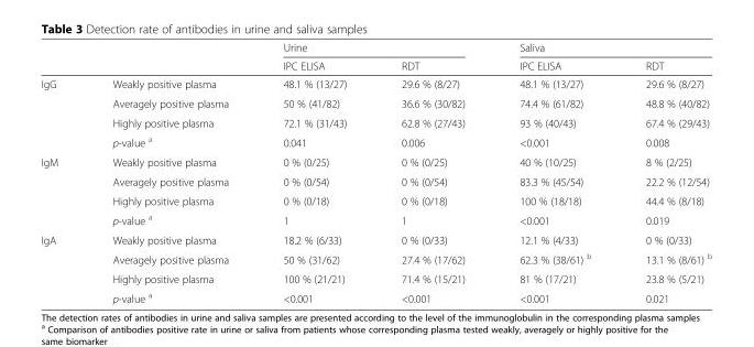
<table><thead><tr><td rowspan="2"></td><td rowspan="2"></td><td colspan="2">Urine</td><td colspan="2">Saliva</td></tr><tr><td>IPC ELISA</td><td>RDT</td><td>IPC ELISA</td><td>RDT</td></tr></thead><tbody><tr><td rowspan="4">IgG</td><td>Weakly positive plasma</td><td>48.1 % (13/27)</td><td>29.6 % (8/27)</td><td>48.1 % (13/27)</td><td>29.6 % (8/27)</td></tr><tr><td>Averagely positive plasma</td><td>50 % (41/82)</td><td>36.6 % (30/82)</td><td>74.4 % (61/82)</td><td>48.8 % (40/82)</td></tr><tr><td>Highly positive plasma</td><td>72.1 % (31/43)</td><td>62.8 % (27/43)</td><td>93 % (40/43)</td><td>67.4 % (29/43)</td></tr><tr><td>p-value <sup>a</sup></td><td>0.041</td><td>0.006</td><td>&lt;0.001</td><td>0.008</td></tr><tr><td rowspan="4">IgM</td><td>Weakly positive plasma</td><td>0 % (0/25)</td><td>0 % (0/25)</td><td>40 % (10/25)</td><td>8 % (2/25)</td></tr><tr><td>Averagely positive plasma</td><td>0 % (0/54)</td><td>0 % (0/54)</td><td>83.3 % (45/54)</td><td>22.2 % (12/54)</td></tr><tr><td>Highly positive plasma</td><td>0 % (0/18)</td><td>0 % (0/18)</td><td>100 % (18/18)</td><td>44.4 % (8/18)</td></tr><tr><td>p-value <sup>a</sup></td><td>1</td><td>1</td><td>&lt;0.001</td><td>0.019</td></tr><tr><td rowspan="4">IgA</td><td>Weakly positive plasma</td><td>18.2 % (6/33)</td><td>0 % (0/33)</td><td>12.1 % (4/33)</td><td>0 % (0/33)</td></tr><tr><td>Averagely positive plasma</td><td>50 % (31/62)</td><td>27.4 % (17/62)</td><td>62.3 % (38/61) <sup>b</sup></td><td>13.1 % (8/61) <sup>b</sup></td></tr><tr><td>Highly positive plasma</td><td>100 % (21/21)</td><td>71.4 % (15/21)</td><td>81 % (17/21)</td><td>23.8 % (5/21)</td></tr><tr><td>p-value <sup>a</sup></td><td>&lt;0.001</td><td>&lt;0.001</td><td>&lt;0.001</td><td>0.021</td></tr></tbody></table>